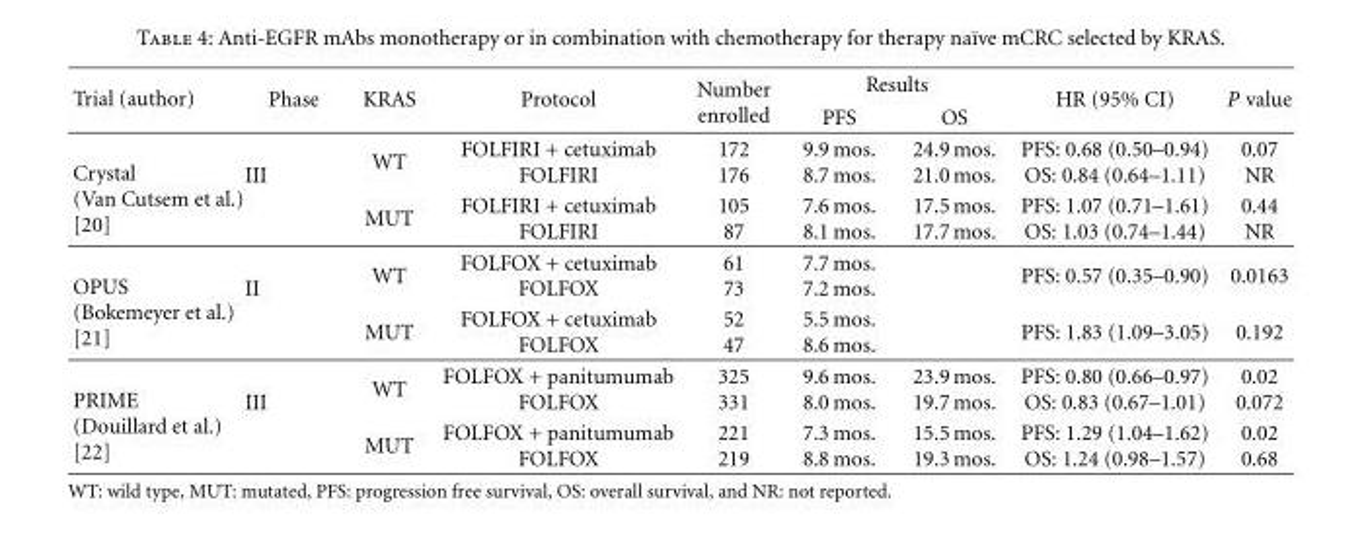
<table><thead><tr><td rowspan="2">Trial (author)</td><td rowspan="2">Phase</td><td rowspan="2">KRAS</td><td rowspan="2">Protocol</td><td rowspan="2">Number enrolled</td><td colspan="2">Results</td><td rowspan="2">HR (95% CI)</td><td rowspan="2">P value</td></tr><tr><td>PFS</td><td>OS</td></tr></thead><tbody><tr><td rowspan="2">Crystal (Van Cutsem et al.) [20]</td><td rowspan="2">III</td><td>WT</td><td>FOLFIRI + cetuximab FOLFIRI</td><td>172 176</td><td>9.9 mos. 8.7 mos.</td><td>24.9 mos. 21.0 mos.</td><td>PFS: 0.68 (0.50–0.94) OS: 0.84 (0.64–1.11)</td><td>0.07 NR</td></tr><tr><td>MUT</td><td>FOLFIRI + cetuximab FOLFIRI</td><td>105 87</td><td>7.6 mos. 8.1 mos.</td><td>17.5 mos. 17.7 mos.</td><td>PFS: 1.07 (0.71–1.61) OS: 1.03 (0.74–1.44)</td><td>0.44 NR</td></tr><tr><td rowspan="2">OPUS (Bokemeyer et al.) [21]</td><td rowspan="2">II</td><td>WT</td><td>FOLFOX + cetuximab FOLFOX</td><td>61 73</td><td>7.7 mos. 7.2 mos.</td><td></td><td>PFS: 0.57 (0.35–0.90)</td><td>0.0163</td></tr><tr><td>MUT</td><td>FOLFOX + cetuximab FOLFOX</td><td>52 47</td><td>5.5 mos. 8.6 mos.</td><td></td><td>PFS: 1.83 (1.09–3.05)</td><td>0.192</td></tr><tr><td rowspan="2">PRIME (Douillard et al.) [22]</td><td rowspan="2">III</td><td>WT</td><td>FOLFOX + panitumumab FOLFOX</td><td>325 331</td><td>9.6 mos. 8.0 mos.</td><td>23.9 mos. 19.7 mos.</td><td>PFS: 0.80 (0.66–0.97) OS: 0.83 (0.67–1.01)</td><td>0.02 0.072</td></tr><tr><td>MUT</td><td>FOLFOX + panitumumab FOLFOX</td><td>221 219</td><td>7.3 mos. 8.8 mos.</td><td>15.5 mos. 19.3 mos.</td><td>PFS: 1.29 (1.04–1.62) OS: 1.24 (0.98–1.57)</td><td>0.02 0.68</td></tr></tbody></table>